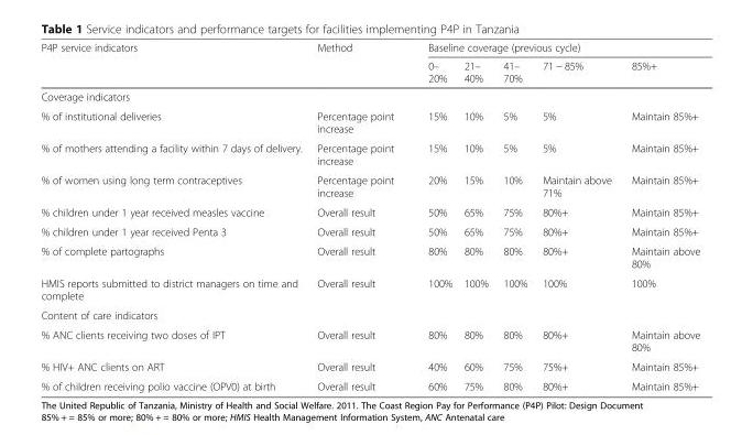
<table><thead><tr><td rowspan="2">P4P service indicators</td><td rowspan="2">Method</td><td colspan="5">Baseline coverage (previous cycle)</td></tr><tr><td>0– 20%</td><td>21– 40%</td><td>41– 70%</td><td>71 − 85%</td><td>85%+</td></tr></thead><tbody><tr><td colspan="7">Coverage indicators</td></tr><tr><td>% of institutional deliveries</td><td>Percentage point increase</td><td>15%</td><td>10%</td><td>5%</td><td>5%</td><td>Maintain 85%+</td></tr><tr><td>% of mothers attending a facility within 7 days of delivery.</td><td>Percentage point increase</td><td>15%</td><td>10%</td><td>5%</td><td>5%</td><td>Maintain 85%+</td></tr><tr><td>% of women using long term contraceptives</td><td>Percentage point increase</td><td>20%</td><td>15%</td><td>10%</td><td>Maintain above 71%</td><td>Maintain 85%+</td></tr><tr><td>% children under 1 year received measles vaccine</td><td>Overall result</td><td>50%</td><td>65%</td><td>75%</td><td>80%+</td><td>Maintain 85%+</td></tr><tr><td>% children under 1 year received Penta 3</td><td>Overall result</td><td>50%</td><td>65%</td><td>75%</td><td>80%+</td><td>Maintain 85%+</td></tr><tr><td>% of complete partographs</td><td>Overall result</td><td>80%</td><td>80%</td><td>80%</td><td>80%+</td><td>Maintain above 80%</td></tr><tr><td>HMIS reports submitted to district managers on time and complete</td><td>Overall result</td><td>100%</td><td>100%</td><td>100%</td><td>100%</td><td>100%</td></tr><tr><td colspan="7">Content of care indicators</td></tr><tr><td>% ANC clients receiving two doses of IPT</td><td>Overall result</td><td>80%</td><td>80%</td><td>80%</td><td>80%+</td><td>Maintain above 80%</td></tr><tr><td>% HIV+ ANC clients on ART</td><td>Overall result</td><td>40%</td><td>60%</td><td>75%</td><td>75%+</td><td>Maintain 85%+</td></tr><tr><td>% of children receiving polio vaccine (OPV0) at birth</td><td>Overall result</td><td>60%</td><td>75%</td><td>80%</td><td>80%+</td><td>Maintain 85%+</td></tr></tbody></table>